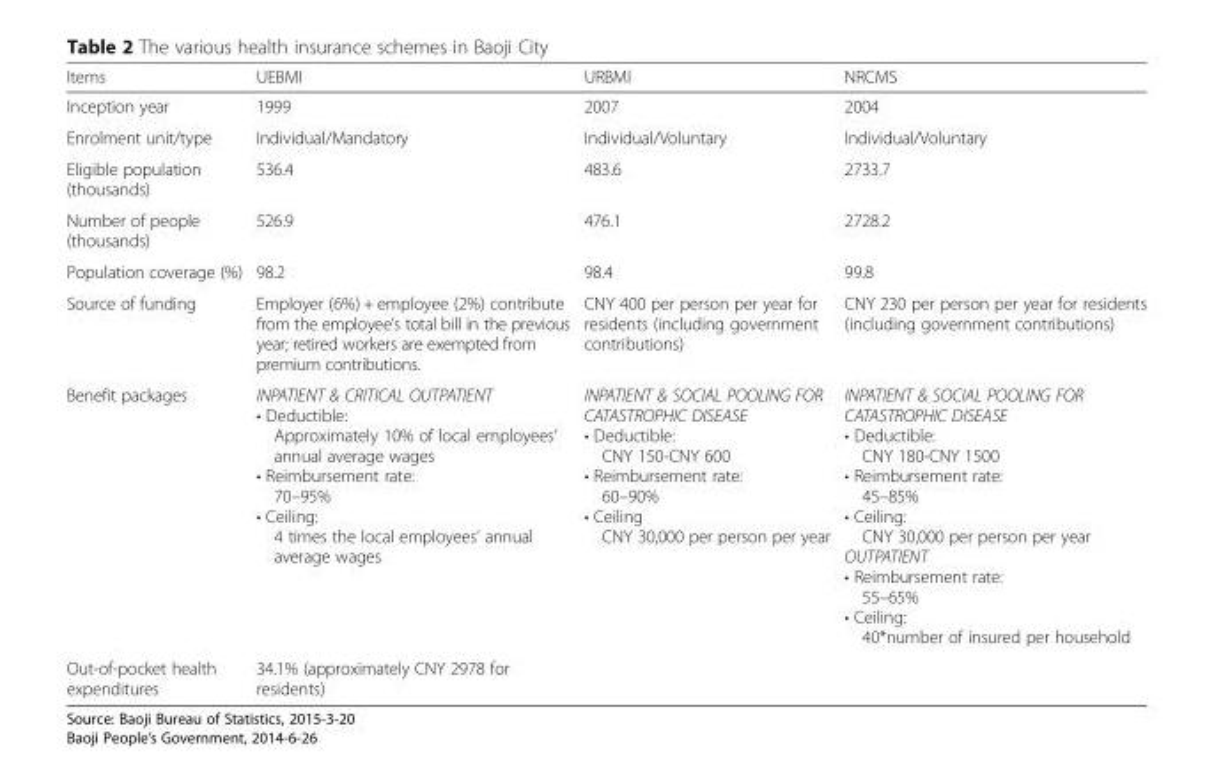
<table><thead><tr><td>Items</td><td>UEBMI</td><td>URBMI</td><td>NRCMS</td></tr></thead><tbody><tr><td>Inception year</td><td>1999</td><td>2007</td><td>2004</td></tr><tr><td>Enrolment unit/type</td><td>Individual/Mandatory</td><td>Individual/Voluntary</td><td>Individual/Voluntary</td></tr><tr><td>Eligible population (thousands)</td><td>536.4</td><td>483.6</td><td>2733.7</td></tr><tr><td>Number of people (thousands)</td><td>526.9</td><td>476.1</td><td>2728.2</td></tr><tr><td>Population coverage (%)</td><td>98.2</td><td>98.4</td><td>99.8</td></tr><tr><td>Source of funding</td><td>Employer (6%) + employee (2%) contribute from the employee’s total bill in the previous year; retired workers are exempted from premium contributions.</td><td>CNY 400 per person per year for residents (including government contributions)</td><td>CNY 230 per person per year for residents (including government contributions)</td></tr><tr><td>Benefit packages</td><td>INPATIENT &amp; CRITICAL OUTPATIENT • Deductible: Approximately 10% of local employees’ annual average wages • Reimbursement rate: 70–95% • Ceiling: 4 times the local employees’ annual average wages</td><td>INPATIENT &amp; SOCIAL POOLING FOR CATASTROPHIC DISEASE • Deductible: CNY 150-CNY 600 • Reimbursement rate: 60–90% • Ceiling CNY 30,000 per person per year</td><td>INPATIENT &amp; SOCIAL POOLING FOR CATASTROPHIC DISEASE • Deductible: CNY 180-CNY 1500 • Reimbursement rate: 45–85% • Ceiling: CNY 30,000 per person per year OUTPATIENT • Reimbursement rate: 55–65% • Ceiling: 40*number of insured per household</td></tr><tr><td>Out-of-pocket health expenditures</td><td colspan="3">34.1% (approximately CNY 2978 for residents)</td></tr></tbody></table>